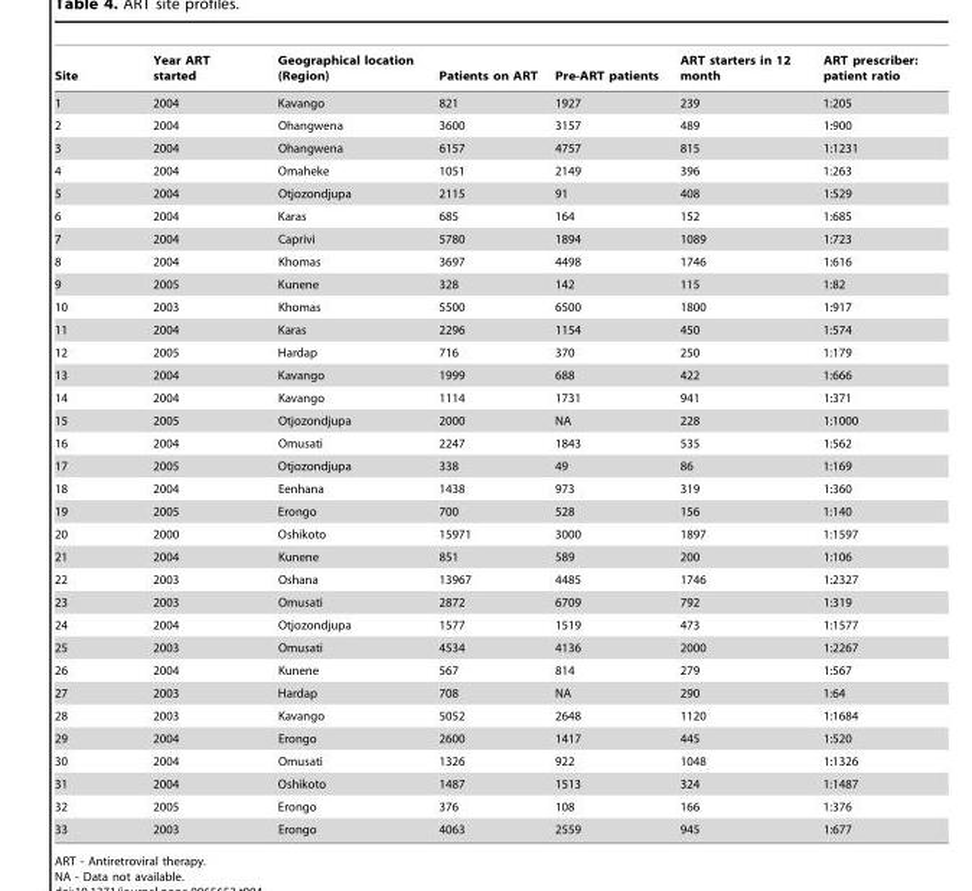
<table><thead><tr><td>Site</td><td>Year ART started</td><td>Geographical location (Region)</td><td>Patients on ART</td><td>Pre-ART patients</td><td>ART starters in 12 month</td><td>ART prescriber: patient ratio</td></tr></thead><tbody><tr><td>1</td><td>2004</td><td>Kavango</td><td>821</td><td>1927</td><td>239</td><td>1:205</td></tr><tr><td>2</td><td>2004</td><td>Ohangwena</td><td>3600</td><td>3157</td><td>489</td><td>1:900</td></tr><tr><td>3</td><td>2004</td><td>Ohangwena</td><td>6157</td><td>4757</td><td>815</td><td>1:1231</td></tr><tr><td>4</td><td>2004</td><td>Omaheke</td><td>1051</td><td>2149</td><td>396</td><td>1:263</td></tr><tr><td>5</td><td>2004</td><td>Otjozondjupa</td><td>2115</td><td>91</td><td>408</td><td>1:529</td></tr><tr><td>6</td><td>2004</td><td>Karas</td><td>685</td><td>164</td><td>152</td><td>1:685</td></tr><tr><td>7</td><td>2004</td><td>Caprivi</td><td>5780</td><td>1894</td><td>1089</td><td>1:723</td></tr><tr><td>8</td><td>2004</td><td>Khomas</td><td>3697</td><td>4498</td><td>1746</td><td>1:616</td></tr><tr><td>9</td><td>2005</td><td>Kunene</td><td>328</td><td>142</td><td>115</td><td>1:82</td></tr><tr><td>10</td><td>2003</td><td>Khomas</td><td>5500</td><td>6500</td><td>1800</td><td>1:917</td></tr><tr><td>11</td><td>2004</td><td>Karas</td><td>2296</td><td>1154</td><td>450</td><td>1:574</td></tr><tr><td>12</td><td>2005</td><td>Hardap</td><td>716</td><td>370</td><td>250</td><td>1:179</td></tr><tr><td>13</td><td>2004</td><td>Kavango</td><td>1999</td><td>688</td><td>422</td><td>1:666</td></tr><tr><td>14</td><td>2004</td><td>Kavango</td><td>1114</td><td>1731</td><td>941</td><td>1:371</td></tr><tr><td>15</td><td>2005</td><td>Otjozondjupa</td><td>2000</td><td>NA</td><td>228</td><td>1:1000</td></tr><tr><td>16</td><td>2004</td><td>Omusati</td><td>2247</td><td>1843</td><td>535</td><td>1:562</td></tr><tr><td>17</td><td>2005</td><td>Otjozondjupa</td><td>338</td><td>49</td><td>86</td><td>1:169</td></tr><tr><td>18</td><td>2004</td><td>Eenhana</td><td>1438</td><td>973</td><td>319</td><td>1:360</td></tr><tr><td>19</td><td>2005</td><td>Erongo</td><td>700</td><td>528</td><td>156</td><td>1:140</td></tr><tr><td>20</td><td>2000</td><td>Oshikoto</td><td>15971</td><td>3000</td><td>1897</td><td>1:1597</td></tr><tr><td>21</td><td>2004</td><td>Kunene</td><td>851</td><td>589</td><td>200</td><td>1:106</td></tr><tr><td>22</td><td>2003</td><td>Oshana</td><td>13967</td><td>4485</td><td>1746</td><td>1:2327</td></tr><tr><td>23</td><td>2003</td><td>Omusati</td><td>2872</td><td>6709</td><td>792</td><td>1:319</td></tr><tr><td>24</td><td>2004</td><td>Otjozondjupa</td><td>1577</td><td>1519</td><td>473</td><td>1:1577</td></tr><tr><td>25</td><td>2003</td><td>Omusati</td><td>4534</td><td>4136</td><td>2000</td><td>1:2267</td></tr><tr><td>26</td><td>2004</td><td>Kunene</td><td>567</td><td>814</td><td>279</td><td>1:567</td></tr><tr><td>27</td><td>2003</td><td>Hardap</td><td>708</td><td>NA</td><td>290</td><td>1:64</td></tr><tr><td>28</td><td>2003</td><td>Kavango</td><td>5052</td><td>2648</td><td>1120</td><td>1:1684</td></tr><tr><td>29</td><td>2004</td><td>Erongo</td><td>2600</td><td>1417</td><td>445</td><td>1:520</td></tr><tr><td>30</td><td>2004</td><td>Omusati</td><td>1326</td><td>922</td><td>1048</td><td>1:1326</td></tr><tr><td>31</td><td>2004</td><td>Oshikoto</td><td>1487</td><td>1513</td><td>324</td><td>1:1487</td></tr><tr><td>32</td><td>2005</td><td>Erongo</td><td>376</td><td>108</td><td>166</td><td>1:376</td></tr><tr><td>33</td><td>2003</td><td>Erongo</td><td>4063</td><td>2559</td><td>945</td><td>1:677</td></tr></tbody></table>